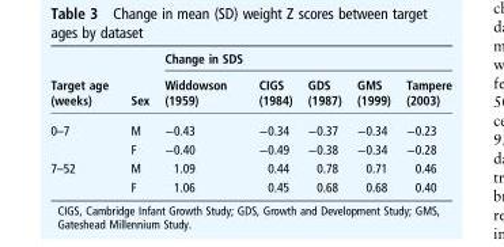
<table><thead><tr><td rowspan="2">Target age (weeks)</td><td rowspan="2">Sex</td><td colspan="5">Change in SDS</td></tr><tr><td>Widdowson (1959)</td><td>CIGS (1984)</td><td>GDS (1987)</td><td>GMS (1999)</td><td>Tampere (2003)</td></tr></thead><tbody><tr><td rowspan="2">0–7</td><td>M</td><td>−0.43</td><td>−0.34</td><td>−0.37</td><td>−0.34</td><td>−0.23</td></tr><tr><td>F</td><td>−0.40</td><td>−0.49</td><td>−0.38</td><td>−0.34</td><td>−0.28</td></tr><tr><td rowspan="2">7–52</td><td>M</td><td>1.09</td><td>0.44</td><td>0.78</td><td>0.71</td><td>0.46</td></tr><tr><td>F</td><td>1.06</td><td>0.45</td><td>0.68</td><td>0.68</td><td>0.40</td></tr></tbody></table>